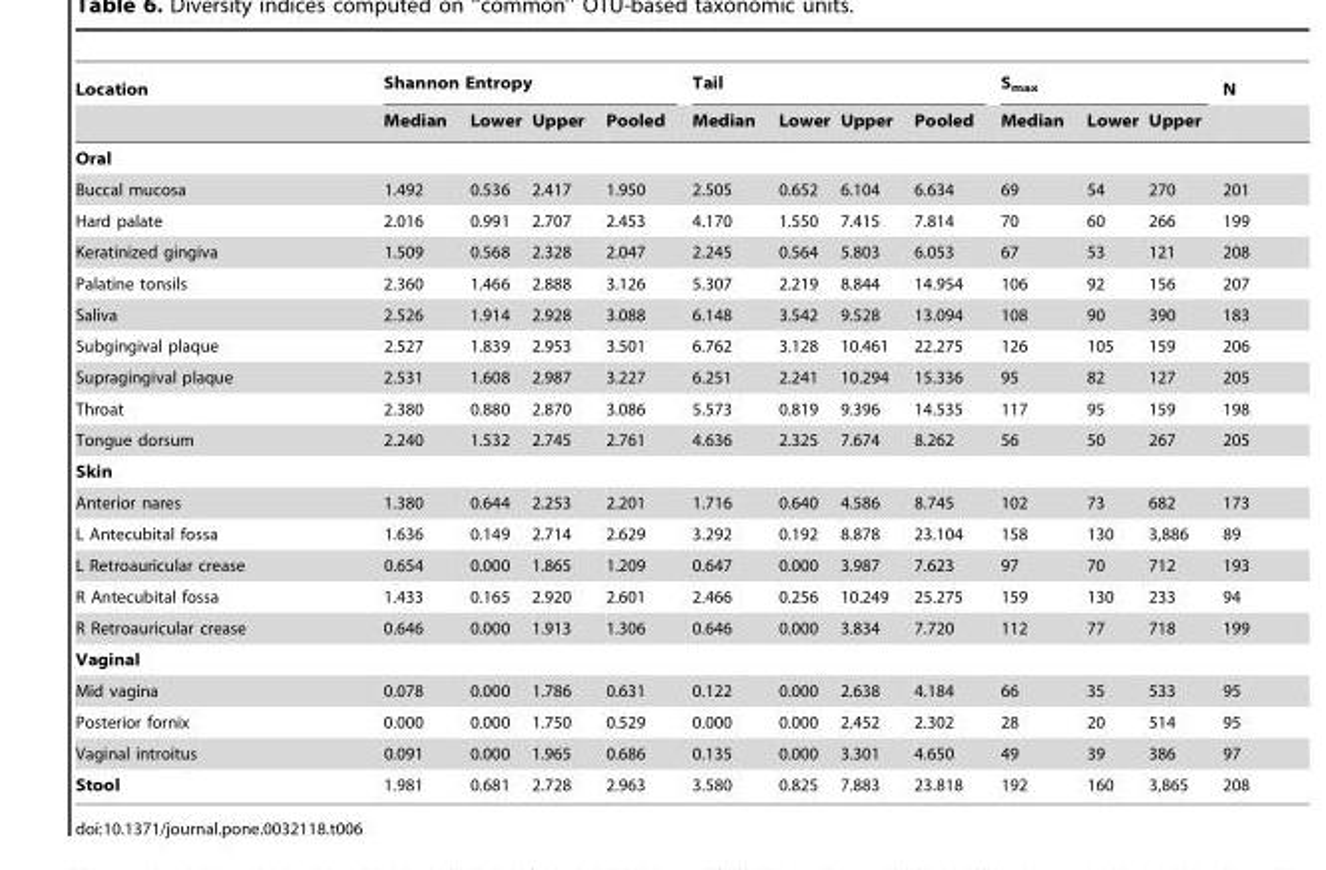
<table><thead><tr><td rowspan="2">Location</td><td colspan="4">Shannon Entropy</td><td colspan="4">Tail</td><td colspan="3">S<sub>max</sub></td><td rowspan="2">N</td></tr><tr><td>Median</td><td>Lower</td><td>Upper</td><td>Pooled</td><td>Median</td><td>Lower</td><td>Upper</td><td>Pooled</td><td>Median</td><td>Lower</td><td>Upper</td></tr></thead><tbody><tr><td colspan="13">Oral</td></tr><tr><td>Buccal mucosa</td><td>1.492</td><td>0.536</td><td>2.417</td><td>1.950</td><td>2.505</td><td>0.652</td><td>6.104</td><td>6.634</td><td>69</td><td>54</td><td>270</td><td>201</td></tr><tr><td>Hard palate</td><td>2.016</td><td>0.991</td><td>2.707</td><td>2.453</td><td>4.170</td><td>1.550</td><td>7.415</td><td>7.814</td><td>70</td><td>60</td><td>266</td><td>199</td></tr><tr><td>Keratinized gingiva</td><td>1.509</td><td>0.568</td><td>2.328</td><td>2.047</td><td>2.245</td><td>0.564</td><td>5.803</td><td>6.053</td><td>67</td><td>53</td><td>121</td><td>208</td></tr><tr><td>Palatine tonsils</td><td>2.360</td><td>1.466</td><td>2.888</td><td>3.126</td><td>5.307</td><td>2.219</td><td>8.844</td><td>14.954</td><td>106</td><td>92</td><td>156</td><td>207</td></tr><tr><td>Saliva</td><td>2.526</td><td>1.914</td><td>2.928</td><td>3.088</td><td>6.148</td><td>3.542</td><td>9.528</td><td>13.094</td><td>108</td><td>90</td><td>390</td><td>183</td></tr><tr><td>Subgingival plaque</td><td>2.527</td><td>1.839</td><td>2.953</td><td>3.501</td><td>6.762</td><td>3.128</td><td>10.461</td><td>22.275</td><td>126</td><td>105</td><td>159</td><td>206</td></tr><tr><td>Supragingival plaque</td><td>2.531</td><td>1.608</td><td>2.987</td><td>3.227</td><td>6.251</td><td>2.241</td><td>10.294</td><td>15.336</td><td>95</td><td>82</td><td>127</td><td>205</td></tr><tr><td>Throat</td><td>2.380</td><td>0.880</td><td>2.870</td><td>3.086</td><td>5.573</td><td>0.819</td><td>9.396</td><td>14.535</td><td>117</td><td>95</td><td>159</td><td>198</td></tr><tr><td>Tongue dorsum</td><td>2.240</td><td>1.532</td><td>2.745</td><td>2.761</td><td>4.636</td><td>2.325</td><td>7.674</td><td>8.262</td><td>56</td><td>50</td><td>267</td><td>205</td></tr><tr><td colspan="13">Skin</td></tr><tr><td>Anterior nares</td><td>1.380</td><td>0.644</td><td>2.253</td><td>2.201</td><td>1.716</td><td>0.640</td><td>4.586</td><td>8.745</td><td>102</td><td>73</td><td>682</td><td>173</td></tr><tr><td>L Antecubital fossa</td><td>1.636</td><td>0.149</td><td>2.714</td><td>2.629</td><td>3.292</td><td>0.192</td><td>8.878</td><td>23.104</td><td>158</td><td>130</td><td>3,886</td><td>89</td></tr><tr><td>L Retroauricular crease</td><td>0.654</td><td>0.000</td><td>1.865</td><td>1.209</td><td>0.647</td><td>0.000</td><td>3.987</td><td>7.623</td><td>97</td><td>70</td><td>712</td><td>193</td></tr><tr><td>R Antecubital fossa</td><td>1.433</td><td>0.165</td><td>2.920</td><td>2.601</td><td>2.466</td><td>0.256</td><td>10.249</td><td>25.275</td><td>159</td><td>130</td><td>233</td><td>94</td></tr><tr><td>R Retroauricular crease</td><td>0.646</td><td>0.000</td><td>1.913</td><td>1.306</td><td>0.646</td><td>0.000</td><td>3.834</td><td>7.720</td><td>112</td><td>77</td><td>718</td><td>199</td></tr><tr><td colspan="13">Vaginal</td></tr><tr><td>Mid vagina</td><td>0.078</td><td>0.000</td><td>1.786</td><td>0.631</td><td>0.122</td><td>0.000</td><td>2.638</td><td>4.184</td><td>66</td><td>35</td><td>533</td><td>95</td></tr><tr><td>Posterior fornix</td><td>0.000</td><td>0.000</td><td>1.750</td><td>0.529</td><td>0.000</td><td>0.000</td><td>2.452</td><td>2.302</td><td>28</td><td>20</td><td>514</td><td>95</td></tr><tr><td>Vaginal introitus</td><td>0.091</td><td>0.000</td><td>1.965</td><td>0.686</td><td>0.135</td><td>0.000</td><td>3.301</td><td>4.650</td><td>49</td><td>39</td><td>386</td><td>97</td></tr><tr><td>Stool</td><td>1.981</td><td>0.681</td><td>2.728</td><td>2.963</td><td>3.580</td><td>0.825</td><td>7.883</td><td>23.818</td><td>192</td><td>160</td><td>3,865</td><td>208</td></tr></tbody></table>